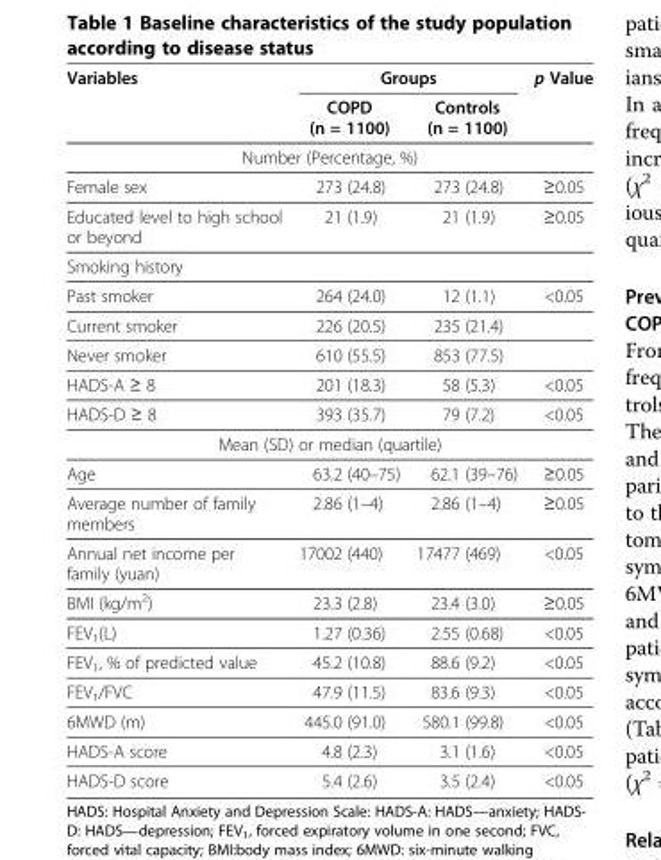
<table><thead><tr><td rowspan="2">Variables</td><td colspan="2">Groups</td><td rowspan="2">p Value</td></tr><tr><td>COPD (n = 1100)</td><td>Controls (n = 1100)</td></tr></thead><tbody><tr><td colspan="4">Number (Percentage, %)</td></tr><tr><td>Female sex</td><td>273 (24.8)</td><td>273 (24.8)</td><td>≥0.05</td></tr><tr><td>Educated level to high school or beyond</td><td>21 (1.9)</td><td>21 (1.9)</td><td>≥0.05</td></tr><tr><td colspan="4">Smoking history</td></tr><tr><td>Past smoker</td><td>264 (24.0)</td><td>12 (1.1)</td><td>&lt;0.05</td></tr><tr><td>Current smoker</td><td>226 (20.5)</td><td>235 (21.4)</td><td></td></tr><tr><td>Never smoker</td><td>610 (55.5)</td><td>853 (77.5)</td><td></td></tr><tr><td>HADS-A ≥ 8</td><td>201 (18.3)</td><td>58 (5.3)</td><td>&lt;0.05</td></tr><tr><td>HADS-D ≥ 8</td><td>393 (35.7)</td><td>79 (7.2)</td><td>&lt;0.05</td></tr><tr><td colspan="4">Mean (SD) or median (quartile)</td></tr><tr><td>Age</td><td>63.2 (40–75)</td><td>62.1 (39–76)</td><td>≥0.05</td></tr><tr><td>Average number of family members</td><td>2.86 (1–4)</td><td>2.86 (1–4)</td><td>≥0.05</td></tr><tr><td>Annual net income per family (yuan)</td><td>17002 (440)</td><td>17477 (469)</td><td>&lt;0.05</td></tr><tr><td>BMI (kg/m<sup>2</sup>)</td><td>23.3 (2.8)</td><td>23.4 (3.0)</td><td>≥0.05</td></tr><tr><td>FEV<sub>1</sub>(L)</td><td>1.27 (0.36)</td><td>2.55 (0.68)</td><td>&lt;0.05</td></tr><tr><td>FEV<sub>1</sub>, % of predicted value</td><td>45.2 (10.8)</td><td>88.6 (9.2)</td><td>&lt;0.05</td></tr><tr><td>FEV<sub>1</sub>/FVC</td><td>47.9 (11.5)</td><td>83.6 (9.3)</td><td>&lt;0.05</td></tr><tr><td>6MWD (m)</td><td>445.0 (91.0)</td><td>580.1 (99.8)</td><td>&lt;0.05</td></tr><tr><td>HADS-A score</td><td>4.8 (2.3)</td><td>3.1 (1.6)</td><td>&lt;0.05</td></tr><tr><td>HADS-D score</td><td>5.4 (2.6)</td><td>3.5 (2.4)</td><td>&lt;0.05</td></tr></tbody></table>